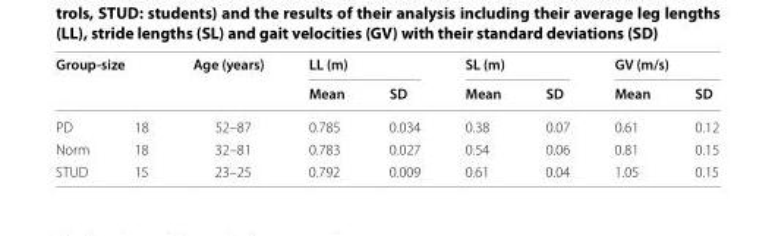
<table><thead><tr><td rowspan="2" colspan="2">Group-size</td><td rowspan="3">Age (years) 52–87</td><td colspan="2">LL (m)</td><td colspan="2">SL (m)</td><td colspan="2">GV (m/s)</td></tr><tr><td rowspan="2">Mean 0.785</td><td rowspan="2">SD 0.034</td><td rowspan="2">Mean 0.38</td><td rowspan="2">SD 0.07</td><td rowspan="2">Mean 0.61</td><td rowspan="2">SD 0.12</td></tr><tr><td>PD</td><td>18</td></tr></thead><tbody><tr><td>Norm</td><td>18</td><td>32–81</td><td>0.783</td><td>0.027</td><td>0.54</td><td>0.06</td><td>0.81</td><td>0.15</td></tr><tr><td>STUD</td><td>15</td><td>23–25</td><td>0.792</td><td>0.009</td><td>0.61</td><td>0.04</td><td>1.05</td><td>0.15</td></tr></tbody></table>